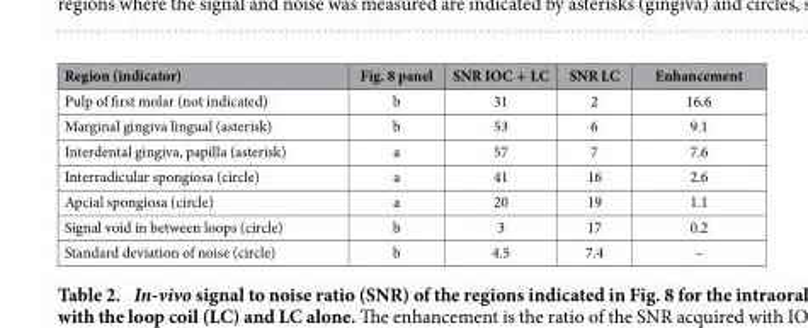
<table><thead><tr><td>Region (indicator)</td><td>Fig. 8 panel</td><td>SNR IOC + LC</td><td>SNR LC</td><td>Enhancement</td></tr></thead><tbody><tr><td>Pulp of first molar (not indicated)</td><td>b</td><td>31</td><td>2</td><td>16.6</td></tr><tr><td>Marginal gingiva lingual (asterisk)</td><td>b</td><td>53</td><td>6</td><td>9.1</td></tr><tr><td>Interdental gingiva, papilla (asterisk)</td><td>a</td><td>57</td><td>7</td><td>7.6</td></tr><tr><td>Interradicular spongiosa (circle)</td><td>a</td><td>41</td><td>16</td><td>2.6</td></tr><tr><td>Apcial spongiosa (circle)</td><td>a</td><td>20</td><td>19</td><td>1.1</td></tr><tr><td>Signal void in between loops (circle)</td><td>b</td><td>3</td><td>17</td><td>0.2</td></tr><tr><td>Standard deviation of noise (circle)</td><td>b</td><td>4.5</td><td>7.4</td><td>–</td></tr></tbody></table>